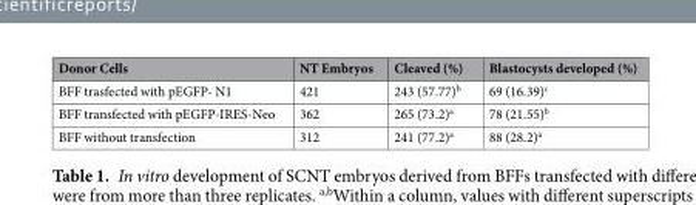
<table><thead><tr><td>Donor Cells</td><td>NT Embryos</td><td>Cleaved (%)</td><td>Blastocysts developed (%)</td></tr></thead><tbody><tr><td>BFF trasfected with pEGFP- N1</td><td>421</td><td>243 (57.77)<sup>b</sup></td><td>69 (16.39)<sup>c</sup></td></tr><tr><td>BFF transfected with pEGFP-IRES-Neo</td><td>362</td><td>265 (73.2)<sup>a</sup></td><td>78 (21.55)<sup>b</sup></td></tr><tr><td>BFF without transfection</td><td>312</td><td>241 (77.2)<sup>a</sup></td><td>88 (28.2)<sup>a</sup></td></tr></tbody></table>